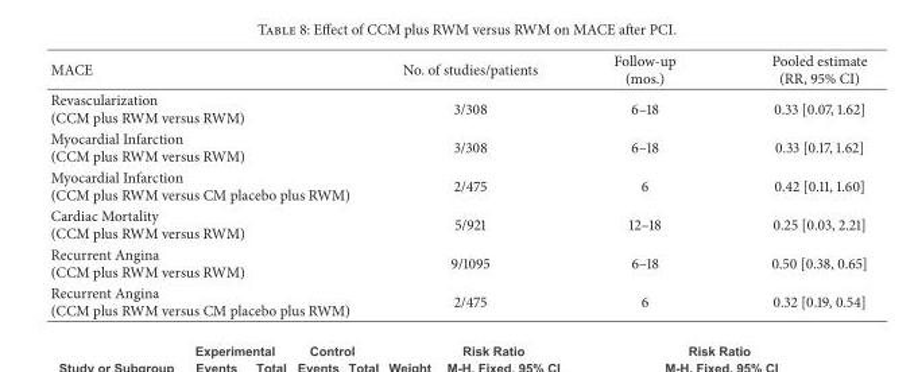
<table><thead><tr><td>MACE</td><td>No. of studies/patients</td><td>Follow-up (mos.)</td><td>Pooled estimate (RR, 95% CI)</td></tr></thead><tbody><tr><td>Revascularization (CCM plus RWM versus RWM)</td><td>3/308</td><td>6–18</td><td>0.33 [0.07, 1.62]</td></tr><tr><td>Myocardial Infarction (CCM plus RWM versus RWM)</td><td>3/308</td><td>6–18</td><td>0.33 [0.17, 1.62]</td></tr><tr><td>Myocardial Infarction (CCM plus RWM versus CM placebo plus RWM)</td><td>2/475</td><td>6</td><td>0.42 [0.11, 1.60]</td></tr><tr><td>Cardiac Mortality (CCM plus RWM versus RWM)</td><td>5/921</td><td>12–18</td><td>0.25 [0.03, 2.21]</td></tr><tr><td>Recurrent Angina (CCM plus RWM versus RWM)</td><td>9/1095</td><td>6–18</td><td>0.50 [0.38, 0.65]</td></tr><tr><td>Recurrent Angina (CCM plus RWM versus CM placebo plus RWM)</td><td>2/475</td><td>6</td><td>0.32 [0.19, 0.54]</td></tr></tbody></table>